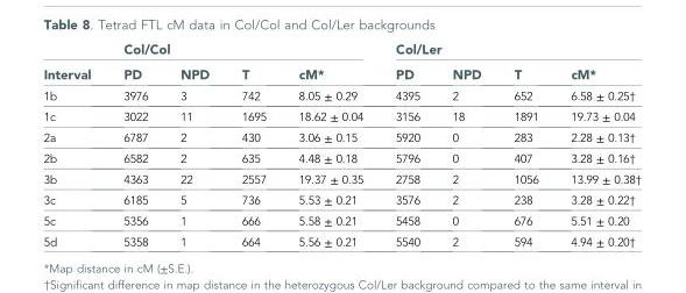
<table><thead><tr><td rowspan="2">Interval</td><td colspan="4">Col/Col</td><td colspan="4">Col/Ler</td></tr><tr><td>PD</td><td>NPD</td><td>T</td><td>cM*</td><td>PD</td><td>NPD</td><td>T</td><td>cM*</td></tr></thead><tbody><tr><td>1b</td><td>3976</td><td>3</td><td>742</td><td>8.05 ± 0.29</td><td>4395</td><td>2</td><td>652</td><td>6.58 ± 0.25†</td></tr><tr><td>1c</td><td>3022</td><td>11</td><td>1695</td><td>18.62 ± 0.04</td><td>3156</td><td>18</td><td>1891</td><td>19.73 ± 0.04</td></tr><tr><td>2a</td><td>6787</td><td>2</td><td>430</td><td>3.06 ± 0.15</td><td>5920</td><td>0</td><td>283</td><td>2.28 ± 0.13†</td></tr><tr><td>2b</td><td>6582</td><td>2</td><td>635</td><td>4.48 ± 0.18</td><td>5796</td><td>0</td><td>407</td><td>3.28 ± 0.16†</td></tr><tr><td>3b</td><td>4363</td><td>22</td><td>2557</td><td>19.37 ± 0.35</td><td>2758</td><td>2</td><td>1056</td><td>13.99 ± 0.38†</td></tr><tr><td>3c</td><td>6185</td><td>5</td><td>736</td><td>5.53 ± 0.21</td><td>3576</td><td>2</td><td>238</td><td>3.28 ± 0.22†</td></tr><tr><td>5c</td><td>5356</td><td>1</td><td>666</td><td>5.58 ± 0.21</td><td>5458</td><td>0</td><td>676</td><td>5.51 ± 0.20</td></tr><tr><td>5d</td><td>5358</td><td>1</td><td>664</td><td>5.56 ± 0.21</td><td>5540</td><td>2</td><td>594</td><td>4.94 ± 0.20†</td></tr></tbody></table>